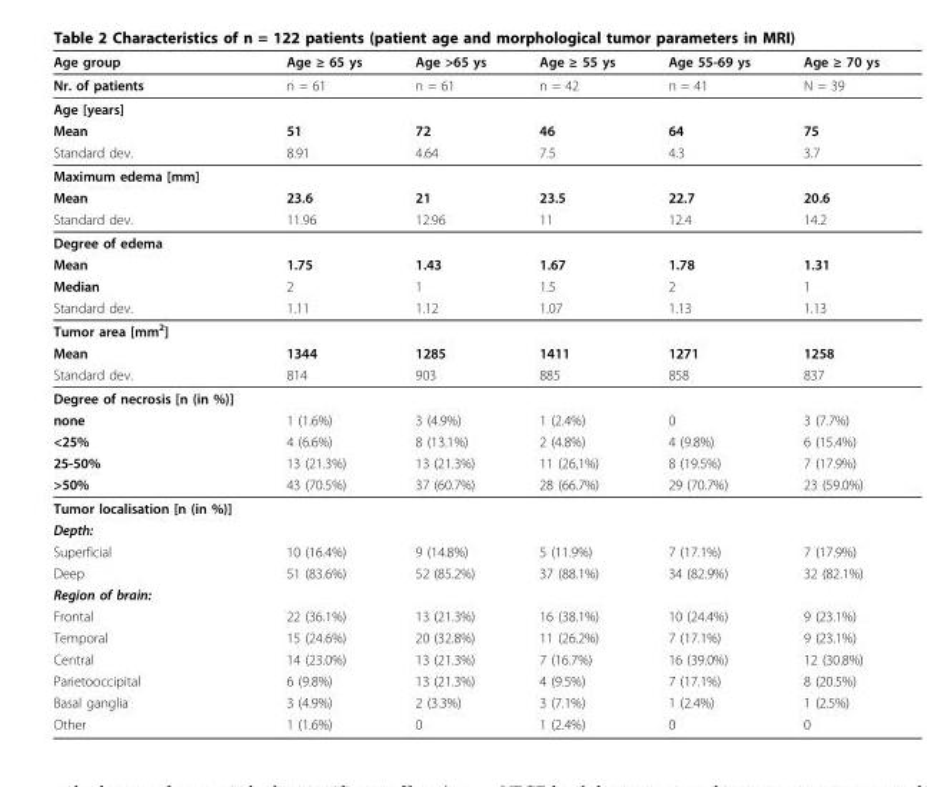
<table><thead><tr><td>Age group</td><td>Age ≥ 65 ys</td><td>Age &gt;65 ys</td><td>Age ≥ 55 ys</td><td>Age 55-69 ys</td><td>Age ≥ 70 ys</td></tr></thead><tbody><tr><td>Nr. of patients</td><td>n = 61</td><td>n = 61</td><td>n = 42</td><td>n = 41</td><td>N = 39</td></tr><tr><td colspan="6">Age [years]</td></tr><tr><td>Mean</td><td>51</td><td>72</td><td>46</td><td>64</td><td>75</td></tr><tr><td>Standard dev.</td><td>8.91</td><td>4.64</td><td>7.5</td><td>4.3</td><td>3.7</td></tr><tr><td colspan="6">Maximum edema [mm]</td></tr><tr><td>Mean</td><td>23.6</td><td>21</td><td>23.5</td><td>22.7</td><td>20.6</td></tr><tr><td>Standard dev.</td><td>11.96</td><td>12.96</td><td>11</td><td>12.4</td><td>14.2</td></tr><tr><td colspan="6">Degree of edema</td></tr><tr><td>Mean</td><td>1.75</td><td>1.43</td><td>1.67</td><td>1.78</td><td>1.31</td></tr><tr><td>Median</td><td>2</td><td>1</td><td>1.5</td><td>2</td><td>1</td></tr><tr><td>Standard dev.</td><td>1.11</td><td>1.12</td><td>1.07</td><td>1.13</td><td>1.13</td></tr><tr><td colspan="6">Tumor area [mm<sup>2</sup>]</td></tr><tr><td>Mean</td><td>1344</td><td>1285</td><td>1411</td><td>1271</td><td>1258</td></tr><tr><td>Standard dev.</td><td>814</td><td>903</td><td>885</td><td>858</td><td>837</td></tr><tr><td colspan="6">Degree of necrosis [n (in %)]</td></tr><tr><td>none</td><td>1 (1.6%)</td><td>3 (4.9%)</td><td>1 (2.4%)</td><td>0</td><td>3 (7.7%)</td></tr><tr><td>&lt;25%</td><td>4 (6.6%)</td><td>8 (13.1%)</td><td>2 (4.8%)</td><td>4 (9.8%)</td><td>6 (15.4%)</td></tr><tr><td>25-50%</td><td>13 (21.3%)</td><td>13 (21.3%)</td><td>11 (26,1%)</td><td>8 (19.5%)</td><td>7 (17.9%)</td></tr><tr><td>&gt;50%</td><td>43 (70.5%)</td><td>37 (60.7%)</td><td>28 (66.7%)</td><td>29 (70.7%)</td><td>23 (59.0%)</td></tr><tr><td colspan="6">Tumor localisation [n (in %)]</td></tr><tr><td colspan="6">Depth:</td></tr><tr><td>Superficial</td><td>10 (16.4%)</td><td>9 (14.8%)</td><td>5 (11.9%)</td><td>7 (17.1%)</td><td>7 (17.9%)</td></tr><tr><td>Deep</td><td>51 (83.6%)</td><td>52 (85.2%)</td><td>37 (88.1%)</td><td>34 (82.9%)</td><td>32 (82.1%)</td></tr><tr><td colspan="6">Region of brain:</td></tr><tr><td>Frontal</td><td>22 (36.1%)</td><td>13 (21.3%)</td><td>16 (38.1%)</td><td>10 (24.4%)</td><td>9 (23.1%)</td></tr><tr><td>Temporal</td><td>15 (24.6%)</td><td>20 (32.8%)</td><td>11 (26.2%)</td><td>7 (17.1%)</td><td>9 (23.1%)</td></tr><tr><td>Central</td><td>14 (23.0%)</td><td>13 (21.3%)</td><td>7 (16.7%)</td><td>16 (39.0%)</td><td>12 (30.8%)</td></tr><tr><td>Parietooccipital</td><td>6 (9.8%)</td><td>13 (21.3%)</td><td>4 (9.5%)</td><td>7 (17.1%)</td><td>8 (20.5%)</td></tr><tr><td>Basal ganglia</td><td>3 (4.9%)</td><td>2 (3.3%)</td><td>3 (7.1%)</td><td>1 (2.4%)</td><td>1 (2.5%)</td></tr><tr><td>Other</td><td>1 (1.6%)</td><td>0</td><td>1 (2.4%)</td><td>0</td><td>0</td></tr></tbody></table>